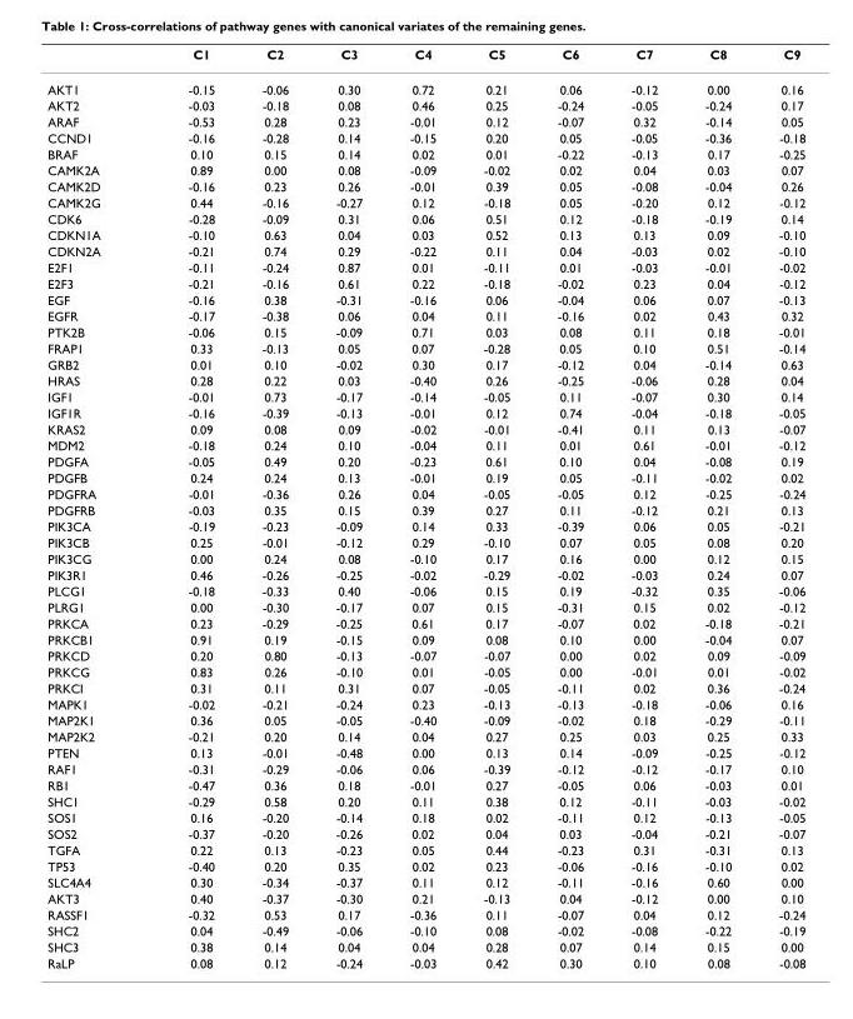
<table><thead><tr><td></td><td>C1</td><td>C2</td><td>C3</td><td>C4</td><td>C5</td><td>C6</td><td>C7</td><td>C8</td><td>C9</td></tr></thead><tbody><tr><td>AKT1</td><td>-0.15</td><td>-0.06</td><td>0.30</td><td>0.72</td><td>0.21</td><td>0.06</td><td>-0.12</td><td>0.00</td><td>0.16</td></tr><tr><td>AKT2</td><td>-0.03</td><td>-0.18</td><td>0.08</td><td>0.46</td><td>0.25</td><td>-0.24</td><td>-0.05</td><td>-0.24</td><td>0.17</td></tr><tr><td>ARAF</td><td>-0.53</td><td>0.28</td><td>0.23</td><td>-0.01</td><td>0.12</td><td>-0.07</td><td>0.32</td><td>-0.14</td><td>0.05</td></tr><tr><td>CCND1</td><td>-0.16</td><td>-0.28</td><td>0.14</td><td>-0.15</td><td>0.20</td><td>0.05</td><td>-0.05</td><td>-0.36</td><td>-0.18</td></tr><tr><td>BRAF</td><td>0.10</td><td>0.15</td><td>0.14</td><td>0.02</td><td>0.01</td><td>-0.22</td><td>-0.13</td><td>0.17</td><td>-0.25</td></tr><tr><td>CAMK2A</td><td>0.89</td><td>0.00</td><td>0.08</td><td>-0.09</td><td>-0.02</td><td>0.02</td><td>0.04</td><td>0.03</td><td>0.07</td></tr><tr><td>CAMK2D</td><td>-0.16</td><td>0.23</td><td>0.26</td><td>-0.01</td><td>0.39</td><td>0.05</td><td>-0.08</td><td>-0.04</td><td>0.26</td></tr><tr><td>CAMK2G</td><td>0.44</td><td>-0.16</td><td>-0.27</td><td>0.12</td><td>-0.18</td><td>0.05</td><td>-0.20</td><td>0.12</td><td>-0.12</td></tr><tr><td>CDK6</td><td>-0.28</td><td>-0.09</td><td>0.31</td><td>0.06</td><td>0.51</td><td>0.12</td><td>-0.18</td><td>-0.19</td><td>0.14</td></tr><tr><td>CDKN1A</td><td>-0.10</td><td>0.63</td><td>0.04</td><td>0.03</td><td>0.52</td><td>0.13</td><td>0.13</td><td>0.09</td><td>-0.10</td></tr><tr><td>CDKN2A</td><td>-0.21</td><td>0.74</td><td>0.29</td><td>-0.22</td><td>0.11</td><td>0.04</td><td>-0.03</td><td>0.02</td><td>-0.10</td></tr><tr><td>E2F1</td><td>-0.11</td><td>-0.24</td><td>0.87</td><td>0.01</td><td>-0.11</td><td>0.01</td><td>-0.03</td><td>-0.01</td><td>-0.02</td></tr><tr><td>E2F3</td><td>-0.21</td><td>-0.16</td><td>0.61</td><td>0.22</td><td>-0.18</td><td>-0.02</td><td>0.23</td><td>0.04</td><td>-0.12</td></tr><tr><td>EGF</td><td>-0.16</td><td>0.38</td><td>-0.31</td><td>-0.16</td><td>0.06</td><td>-0.04</td><td>0.06</td><td>0.07</td><td>-0.13</td></tr><tr><td>EGFR</td><td>-0.17</td><td>-0.38</td><td>0.06</td><td>0.04</td><td>0.11</td><td>-0.16</td><td>0.02</td><td>0.43</td><td>0.32</td></tr><tr><td>PTK2B</td><td>-0.06</td><td>0.15</td><td>-0.09</td><td>0.71</td><td>0.03</td><td>0.08</td><td>0.11</td><td>0.18</td><td>-0.01</td></tr><tr><td>FRAP1</td><td>0.33</td><td>-0.13</td><td>0.05</td><td>0.07</td><td>-0.28</td><td>0.05</td><td>0.10</td><td>0.51</td><td>-0.14</td></tr><tr><td>GRB2</td><td>0.01</td><td>0.10</td><td>-0.02</td><td>0.30</td><td>0.17</td><td>-0.12</td><td>0.04</td><td>-0.14</td><td>0.63</td></tr><tr><td>HRAS</td><td>0.28</td><td>0.22</td><td>0.03</td><td>-0.40</td><td>0.26</td><td>-0.25</td><td>-0.06</td><td>0.28</td><td>0.04</td></tr><tr><td>IGF1</td><td>-0.01</td><td>0.73</td><td>-0.17</td><td>-0.14</td><td>-0.05</td><td>0.11</td><td>-0.07</td><td>0.30</td><td>0.14</td></tr><tr><td>IGF1R</td><td>-0.16</td><td>-0.39</td><td>-0.13</td><td>-0.01</td><td>0.12</td><td>0.74</td><td>-0.04</td><td>-0.18</td><td>-0.05</td></tr><tr><td>KRAS2</td><td>0.09</td><td>0.08</td><td>0.09</td><td>-0.02</td><td>-0.01</td><td>-0.41</td><td>0.11</td><td>0.13</td><td>-0.07</td></tr><tr><td>MDM2</td><td>-0.18</td><td>0.24</td><td>0.10</td><td>-0.04</td><td>0.11</td><td>0.01</td><td>0.61</td><td>-0.01</td><td>-0.12</td></tr><tr><td>PDGFA</td><td>-0.05</td><td>0.49</td><td>0.20</td><td>-0.23</td><td>0.61</td><td>0.10</td><td>0.04</td><td>-0.08</td><td>0.19</td></tr><tr><td>PDGFB</td><td>0.24</td><td>0.24</td><td>0.13</td><td>-0.01</td><td>0.19</td><td>0.05</td><td>-0.11</td><td>-0.02</td><td>0.02</td></tr><tr><td>PDGFRA</td><td>-0.01</td><td>-0.36</td><td>0.26</td><td>0.04</td><td>-0.05</td><td>-0.05</td><td>0.12</td><td>-0.25</td><td>-0.24</td></tr><tr><td>PDGFRB</td><td>-0.03</td><td>0.35</td><td>0.15</td><td>0.39</td><td>0.27</td><td>0.11</td><td>-0.12</td><td>0.21</td><td>0.13</td></tr><tr><td>PIK3CA</td><td>-0.19</td><td>-0.23</td><td>-0.09</td><td>0.14</td><td>0.33</td><td>-0.39</td><td>0.06</td><td>0.05</td><td>-0.21</td></tr><tr><td>PIK3CB</td><td>0.25</td><td>-0.01</td><td>-0.12</td><td>0.29</td><td>-0.10</td><td>0.07</td><td>0.05</td><td>0.08</td><td>0.20</td></tr><tr><td>PIK3CG</td><td>0.00</td><td>0.24</td><td>0.08</td><td>-0.10</td><td>0.17</td><td>0.16</td><td>0.00</td><td>0.12</td><td>0.15</td></tr><tr><td>PIK3R1</td><td>0.46</td><td>-0.26</td><td>-0.25</td><td>-0.02</td><td>-0.29</td><td>-0.02</td><td>-0.03</td><td>0.24</td><td>0.07</td></tr><tr><td>PLCG1</td><td>-0.18</td><td>-0.33</td><td>0.40</td><td>-0.06</td><td>0.15</td><td>0.19</td><td>-0.32</td><td>0.35</td><td>-0.06</td></tr><tr><td>PLRG1</td><td>0.00</td><td>-0.30</td><td>-0.17</td><td>0.07</td><td>0.15</td><td>-0.31</td><td>0.15</td><td>0.02</td><td>-0.12</td></tr><tr><td>PRKCA</td><td>0.23</td><td>-0.29</td><td>-0.25</td><td>0.61</td><td>0.17</td><td>-0.07</td><td>0.02</td><td>-0.18</td><td>-0.21</td></tr><tr><td>PRKCB1</td><td>0.91</td><td>0.19</td><td>-0.15</td><td>0.09</td><td>0.08</td><td>0.10</td><td>0.00</td><td>-0.04</td><td>0.07</td></tr><tr><td>PRKCD</td><td>0.20</td><td>0.80</td><td>-0.13</td><td>-0.07</td><td>-0.07</td><td>0.00</td><td>0.02</td><td>0.09</td><td>-0.09</td></tr><tr><td>PRKCG</td><td>0.83</td><td>0.26</td><td>-0.10</td><td>0.01</td><td>-0.05</td><td>0.00</td><td>-0.01</td><td>0.01</td><td>-0.02</td></tr><tr><td>PRKCI</td><td>0.31</td><td>0.11</td><td>0.31</td><td>0.07</td><td>-0.05</td><td>-0.11</td><td>0.02</td><td>0.36</td><td>-0.24</td></tr><tr><td>MAPK1</td><td>-0.02</td><td>-0.21</td><td>-0.24</td><td>0.23</td><td>-0.13</td><td>-0.13</td><td>-0.18</td><td>-0.06</td><td>0.16</td></tr><tr><td>MAP2K1</td><td>0.36</td><td>0.05</td><td>-0.05</td><td>-0.40</td><td>-0.09</td><td>-0.02</td><td>0.18</td><td>-0.29</td><td>-0.11</td></tr><tr><td>MAP2K2</td><td>-0.21</td><td>0.20</td><td>0.14</td><td>0.04</td><td>0.27</td><td>0.25</td><td>0.03</td><td>0.25</td><td>0.33</td></tr><tr><td>PTEN</td><td>0.13</td><td>-0.01</td><td>-0.48</td><td>0.00</td><td>0.13</td><td>0.14</td><td>-0.09</td><td>-0.25</td><td>-0.12</td></tr><tr><td>RAF1</td><td>-0.31</td><td>-0.29</td><td>-0.06</td><td>0.06</td><td>-0.39</td><td>-0.12</td><td>-0.12</td><td>-0.17</td><td>0.10</td></tr><tr><td>RB1</td><td>-0.47</td><td>0.36</td><td>0.18</td><td>-0.01</td><td>0.27</td><td>-0.05</td><td>0.06</td><td>-0.03</td><td>0.01</td></tr><tr><td>SHC1</td><td>-0.29</td><td>0.58</td><td>0.20</td><td>0.11</td><td>0.38</td><td>0.12</td><td>-0.11</td><td>-0.03</td><td>-0.02</td></tr><tr><td>SOS1</td><td>0.16</td><td>-0.20</td><td>-0.14</td><td>0.18</td><td>0.02</td><td>-0.11</td><td>0.12</td><td>-0.13</td><td>-0.05</td></tr><tr><td>SOS2</td><td>-0.37</td><td>-0.20</td><td>-0.26</td><td>0.02</td><td>0.04</td><td>0.03</td><td>-0.04</td><td>-0.21</td><td>-0.07</td></tr><tr><td>TGFA</td><td>0.22</td><td>0.13</td><td>-0.23</td><td>0.05</td><td>0.44</td><td>-0.23</td><td>0.31</td><td>-0.31</td><td>0.13</td></tr><tr><td>TP53</td><td>-0.40</td><td>0.20</td><td>0.35</td><td>0.02</td><td>0.23</td><td>-0.06</td><td>-0.16</td><td>-0.10</td><td>0.02</td></tr><tr><td>SLC4A4</td><td>0.30</td><td>-0.34</td><td>-0.37</td><td>0.11</td><td>0.12</td><td>-0.11</td><td>-0.16</td><td>0.60</td><td>0.00</td></tr><tr><td>AKT3</td><td>0.40</td><td>-0.37</td><td>-0.30</td><td>0.21</td><td>-0.13</td><td>0.04</td><td>-0.12</td><td>0.00</td><td>0.10</td></tr><tr><td>RASSF1</td><td>-0.32</td><td>0.53</td><td>0.17</td><td>-0.36</td><td>0.11</td><td>-0.07</td><td>0.04</td><td>0.12</td><td>-0.24</td></tr><tr><td>SHC2</td><td>0.04</td><td>-0.49</td><td>-0.06</td><td>-0.10</td><td>0.08</td><td>-0.02</td><td>-0.08</td><td>-0.22</td><td>-0.19</td></tr><tr><td>SHC3</td><td>0.38</td><td>0.14</td><td>0.04</td><td>0.04</td><td>0.28</td><td>0.07</td><td>0.14</td><td>0.15</td><td>0.00</td></tr><tr><td>RaLP</td><td>0.08</td><td>0.12</td><td>-0.24</td><td>-0.03</td><td>0.42</td><td>0.30</td><td>0.10</td><td>0.08</td><td>-0.08</td></tr></tbody></table>